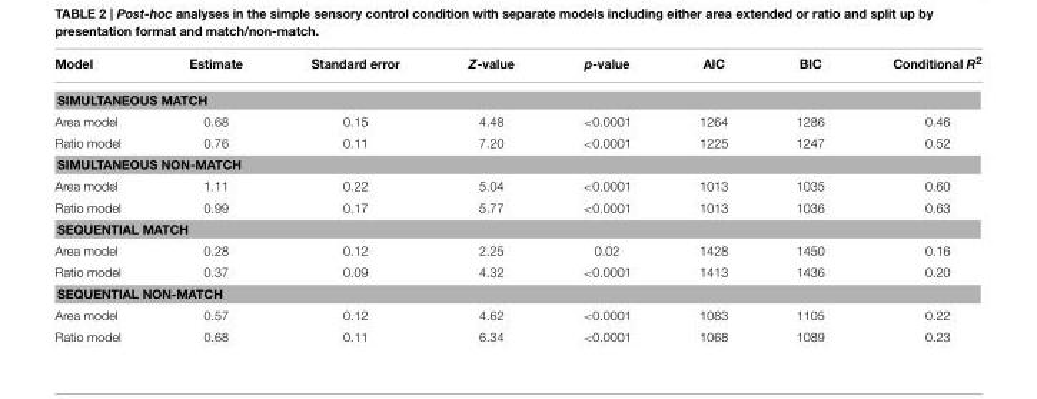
<table><thead><tr><td>Model</td><td>Estimate</td><td>Standard error</td><td>Z-value</td><td>p-value</td><td>AlC</td><td>BIC</td><td>Conditional R<sup>2</sup></td></tr></thead><tbody><tr><td colspan="8">SIMULTANEOUS MATCH</td></tr><tr><td>Area model</td><td>0.68</td><td>0.15</td><td>4.48</td><td>&lt;0.0001</td><td>1264</td><td>1286</td><td>0.46</td></tr><tr><td>Ratio model</td><td>0.76</td><td>0.11</td><td>7.20</td><td>&lt;0.0001</td><td>1225</td><td>1247</td><td>0.52</td></tr><tr><td colspan="8">SIMULTANEOUS NON-MATCH</td></tr><tr><td>Area model</td><td>1.11</td><td>0.22</td><td>5.04</td><td>&lt;0.0001</td><td>1013</td><td>1035</td><td>0.60</td></tr><tr><td>Ratio model</td><td>0.99</td><td>0.17</td><td>5.77</td><td>&lt;0.0001</td><td>1013</td><td>1036</td><td>0.63</td></tr><tr><td colspan="8">SEQUENTIAL MATCH</td></tr><tr><td>Area model</td><td>0.28</td><td>0.12</td><td>2.25</td><td>0.02</td><td>1428</td><td>1450</td><td>0.16</td></tr><tr><td>Ratio model</td><td>0.37</td><td>0.09</td><td>4.32</td><td>&lt;0.0001</td><td>1413</td><td>1436</td><td>0.20</td></tr><tr><td colspan="8">SEQUENTIAL NON-MATCH</td></tr><tr><td>Area model</td><td>0.57</td><td>0.12</td><td>4.62</td><td>&lt;0.0001</td><td>1083</td><td>1105</td><td>0.22</td></tr><tr><td>Ratio model</td><td>0.68</td><td>0.11</td><td>6.34</td><td>&lt;0.0001</td><td>1068</td><td>1089</td><td>0.23</td></tr></tbody></table>